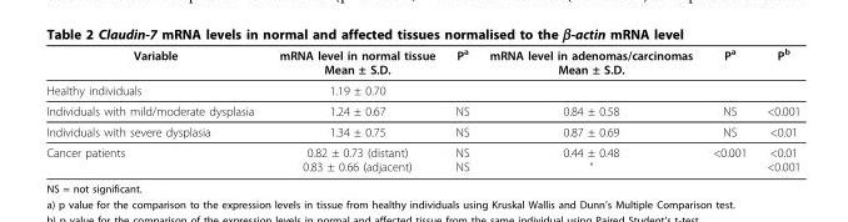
<table><thead><tr><td>Variable</td><td>mRNA level in normal tissue Mean ± S.D.</td><td>P<sup>a</sup></td><td>mRNA level in adenomas/carcinomas Mean ± S.D.</td><td>P<sup>a</sup></td><td>P<sup>b</sup></td></tr></thead><tbody><tr><td>Healthy individuals</td><td>1.19 ± 0.70</td><td></td><td></td><td></td><td></td></tr><tr><td>Individuals with mild/moderate dysplasia</td><td>1.24 ± 0.67</td><td>NS</td><td>0.84 ± 0.58</td><td>NS</td><td>&lt;0.001</td></tr><tr><td>Individuals with severe dysplasia</td><td>1.34 ± 0.75</td><td>NS</td><td>0.87 ± 0.69</td><td>NS</td><td>&lt;0.01</td></tr><tr><td>Cancer patients</td><td>0.82 ± 0.73 (distant) 0.83 ± 0.66 (adjacent)</td><td>NS NS</td><td>0.44 ± 0.48 “</td><td>&lt;0.001</td><td>&lt;0.01 &lt;0.001</td></tr></tbody></table>